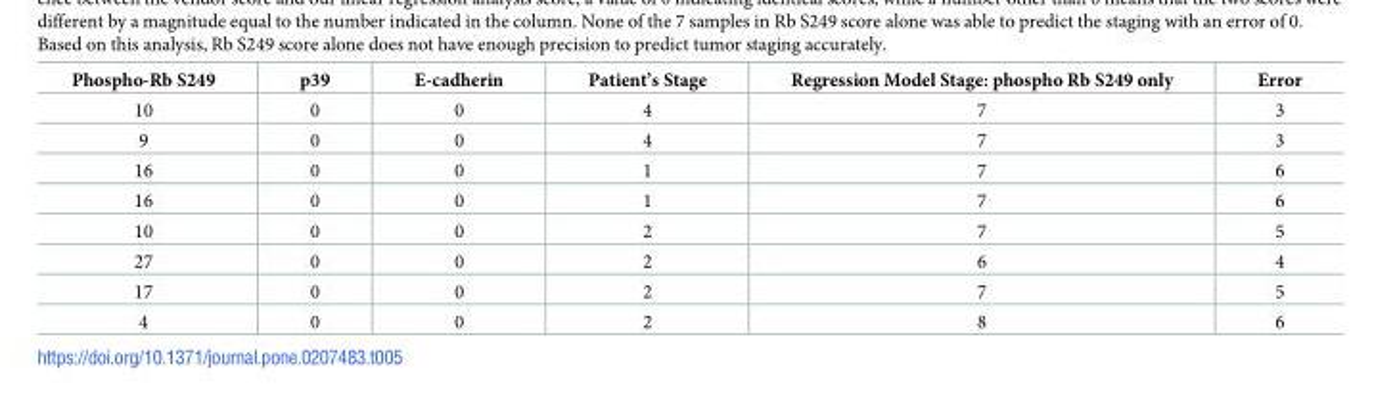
<table><thead><tr><td>Phospho-Rb S249</td><td>p39</td><td>E-cadherin</td><td>Patient’s Stage</td><td>Regression Model Stage: phospho Rb S249 only</td><td>Error</td></tr></thead><tbody><tr><td>10</td><td>0</td><td>0</td><td>4</td><td>7</td><td>3</td></tr><tr><td>9</td><td>0</td><td>0</td><td>4</td><td>7</td><td>3</td></tr><tr><td>16</td><td>0</td><td>0</td><td>1</td><td>7</td><td>6</td></tr><tr><td>16</td><td>0</td><td>0</td><td>1</td><td>7</td><td>6</td></tr><tr><td>10</td><td>0</td><td>0</td><td>2</td><td>7</td><td>5</td></tr><tr><td>27</td><td>0</td><td>0</td><td>2</td><td>6</td><td>4</td></tr><tr><td>17</td><td>0</td><td>0</td><td>2</td><td>7</td><td>5</td></tr><tr><td>4</td><td>0</td><td>0</td><td>2</td><td>8</td><td>6</td></tr></tbody></table>